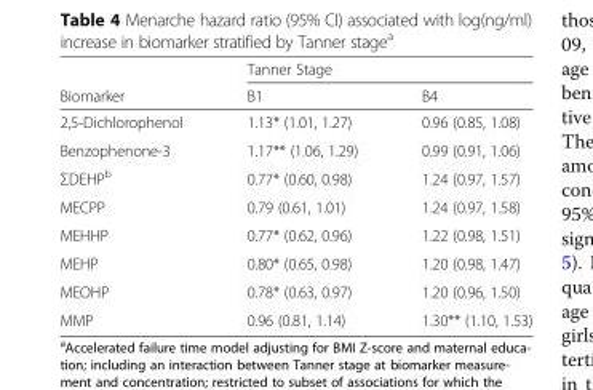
<table><thead><tr><td rowspan="2">Biomarker</td><td colspan="2">Tanner Stage</td></tr><tr><td>B1</td><td>B4</td></tr></thead><tbody><tr><td>2,5-Dichlorophenol</td><td>1.13* (1.01, 1.27)</td><td>0.96 (0.85, 1.08)</td></tr><tr><td>Benzophenone-3</td><td>1.17** (1.06, 1.29)</td><td>0.99 (0.91, 1.06)</td></tr><tr><td>ΣDEHP<sup>b</sup></td><td>0.77* (0.60, 0.98)</td><td>1.24 (0.97, 1.57)</td></tr><tr><td>MECPP</td><td>0.79 (0.61, 1.01)</td><td>1.24 (0.97, 1.58)</td></tr><tr><td>MEHHP</td><td>0.77* (0.62, 0.96)</td><td>1.22 (0.98, 1.51)</td></tr><tr><td>MEHP</td><td>0.80* (0.65, 0.98)</td><td>1.20 (0.98, 1.47)</td></tr><tr><td>MEOHP</td><td>0.78* (0.63, 0.97)</td><td>1.20 (0.96, 1.50)</td></tr><tr><td>MMP</td><td>0.96 (0.81, 1.14)</td><td>1.30** (1.10, 1.53)</td></tr></tbody></table>